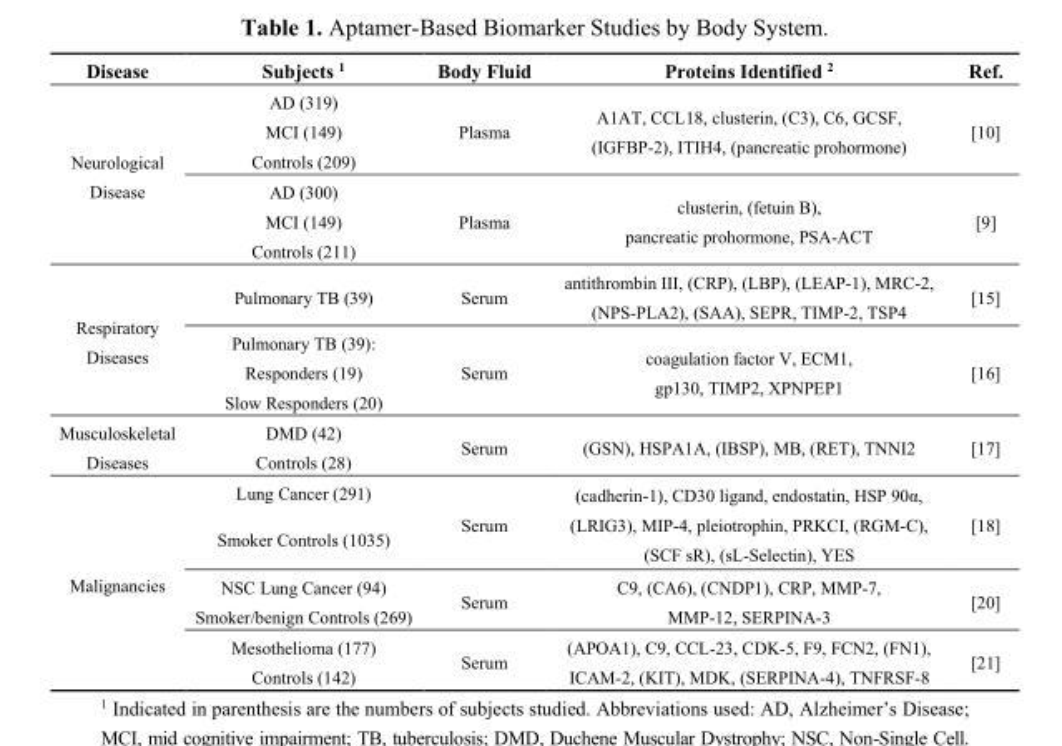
<table><thead><tr><td>Disease</td><td>Subjects <sup>1</sup></td><td>Body Fluid</td><td>Proteins Identified <sup>2</sup></td><td>Ref.</td></tr></thead><tbody><tr><td rowspan="6">Neurological Disease</td><td>AD (319)</td><td rowspan="3">Plasma</td><td rowspan="3">A1AT, CCL18, clusterin, (C3), C6, GCSF, (IGFBP-2), ITIH4, (pancreatic prohormone)</td><td rowspan="3">[10]</td></tr><tr><td>MCI (149)</td></tr><tr><td>Controls (209)</td></tr><tr><td>AD (300)</td><td rowspan="3">Plasma</td><td rowspan="3">clusterin, (fetuin B), pancreatic prohormone, PSA-ACT</td><td rowspan="3">[9]</td></tr><tr><td>MCI (149)</td></tr><tr><td>Controls (211)</td></tr><tr><td rowspan="4">Respiratory Diseases</td><td>Pulmonary TB (39)</td><td>Serum</td><td>antithrombin III, (CRP), (LBP), (LEAP-1), MRC-2, (NPS-PLA2), (SAA), SEPR, TIMP-2, TSP4</td><td>[15]</td></tr><tr><td>Pulmonary TB (39):</td><td rowspan="3">Serum</td><td rowspan="3">coagulation factor V, ECM1, gp130, TIMP2, XPNPEP1</td><td rowspan="3">[16]</td></tr><tr><td>Responders (19)</td></tr><tr><td>Slow Responders (20)</td></tr><tr><td rowspan="2">Musculoskeletal Diseases</td><td>DMD (42)</td><td rowspan="2">Serum</td><td rowspan="2">(GSN), HSPA1A, (IBSP), MB, (RET), TNNI2</td><td rowspan="2">[17]</td></tr><tr><td>Controls (28)</td></tr><tr><td rowspan="6">Malignancies</td><td>Lung Cancer (291)</td><td rowspan="2">Serum</td><td rowspan="2">(cadherin-1), CD30 ligand, endostatin, HSP 90α, (LRIG3), MIP-4, pleiotrophin, PRKCI, (RGM-C), (SCF sR), (sL-Selectin), YES</td><td rowspan="2">[18]</td></tr><tr><td>Smoker Controls (1035)</td></tr><tr><td>NSC Lung Cancer (94)</td><td rowspan="2">Serum</td><td rowspan="2">C9, (CA6), (CNDP1), CRP, MMP-7, MMP-12, SERPINA-3</td><td rowspan="2">[20]</td></tr><tr><td>Smoker/benign Controls (269)</td></tr><tr><td>Mesothelioma (177)</td><td rowspan="2">Serum</td><td rowspan="2">(APOA1), C9, CCL-23, CDK-5, F9, FCN2, (FN1), ICAM-2, (KIT), MDK, (SERPINA-4), TNFRSF-8</td><td rowspan="2">[21]</td></tr><tr><td>Controls (142)</td></tr></tbody></table>